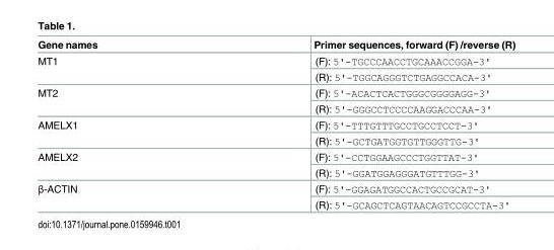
<table><thead><tr><td>Gene names</td><td>Primer sequences, forward (F) /reverse (R)</td></tr></thead><tbody><tr><td rowspan="2">MT1</td><td>(F): 5&#x27;-TGCCCAACCTGCAAACCGGA-3&#x27;</td></tr><tr><td>(R): 5&#x27;-TGGCAGGGTCTGAGGCCACA-3&#x27;</td></tr><tr><td rowspan="2">MT2</td><td>(F): 5&#x27;-ACACTCACTGGGCGGGGAGG-3&#x27;</td></tr><tr><td>(R): 5&#x27;-GGGCCTCCCCAAGGACCCAA-3&#x27;</td></tr><tr><td rowspan="2">AMELX1</td><td>(F): 5&#x27;-TTTGTTTGCCTGCCTCCT-3&#x27;</td></tr><tr><td>(R): 5&#x27;-GCTGATGGTGTTGGGTTG-3&#x27;</td></tr><tr><td rowspan="2">AMELX2</td><td>(F): 5&#x27;-CCTGGAAGCCCTGGTTAT-3&#x27;</td></tr><tr><td>(R): 5&#x27;-GGATGGAGGGATGTTTGG-3&#x27;</td></tr><tr><td rowspan="2">β-ACTIN</td><td>(F): 5&#x27;-GGAGATGGCCACTGCCGCAT-3&#x27;</td></tr><tr><td>(R): 5&#x27;-GCAGCTCAGTAACAGTCCGCCTA-3&#x27;</td></tr></tbody></table>